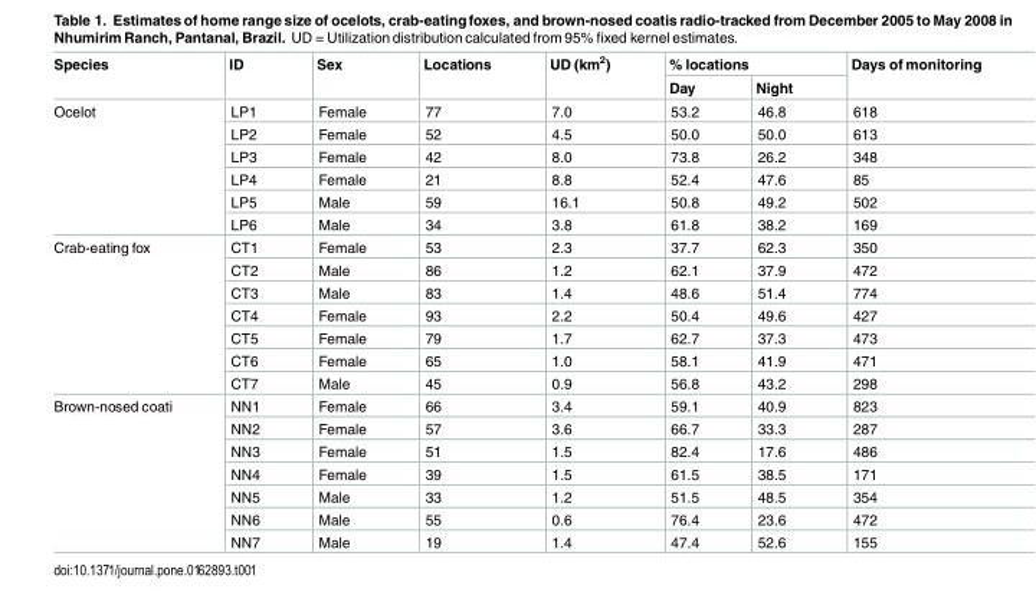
<table><thead><tr><td rowspan="2">Species</td><td rowspan="2">ID</td><td rowspan="2">Sex</td><td rowspan="2">Locations</td><td rowspan="2">UD (km<sup>2</sup>)</td><td colspan="2">% locations</td><td rowspan="2">Days of monitoring</td></tr><tr><td>Day</td><td>Night</td></tr></thead><tbody><tr><td rowspan="6">Ocelot</td><td>LP1</td><td>Female</td><td>77</td><td>7.0</td><td>53.2</td><td>46.8</td><td>618</td></tr><tr><td>LP2</td><td>Female</td><td>52</td><td>4.5</td><td>50.0</td><td>50.0</td><td>613</td></tr><tr><td>LP3</td><td>Female</td><td>42</td><td>8.0</td><td>73.8</td><td>26.2</td><td>348</td></tr><tr><td>LP4</td><td>Female</td><td>21</td><td>8.8</td><td>52.4</td><td>47.6</td><td>85</td></tr><tr><td>LP5</td><td>Male</td><td>59</td><td>16.1</td><td>50.8</td><td>49.2</td><td>502</td></tr><tr><td>LP6</td><td>Male</td><td>34</td><td>3.8</td><td>61.8</td><td>38.2</td><td>169</td></tr><tr><td rowspan="7">Crab-eating fox</td><td>CT1</td><td>Female</td><td>53</td><td>2.3</td><td>37.7</td><td>62.3</td><td>350</td></tr><tr><td>CT2</td><td>Male</td><td>86</td><td>1.2</td><td>62.1</td><td>37.9</td><td>472</td></tr><tr><td>CT3</td><td>Male</td><td>83</td><td>1.4</td><td>48.6</td><td>51.4</td><td>774</td></tr><tr><td>CT4</td><td>Female</td><td>93</td><td>2.2</td><td>50.4</td><td>49.6</td><td>427</td></tr><tr><td>CT5</td><td>Female</td><td>79</td><td>1.7</td><td>62.7</td><td>37.3</td><td>473</td></tr><tr><td>CT6</td><td>Female</td><td>65</td><td>1.0</td><td>58.1</td><td>41.9</td><td>471</td></tr><tr><td>CT7</td><td>Male</td><td>45</td><td>0.9</td><td>56.8</td><td>43.2</td><td>298</td></tr><tr><td rowspan="7">Brown-nosed coati</td><td>NN1</td><td>Female</td><td>66</td><td>3.4</td><td>59.1</td><td>40.9</td><td>823</td></tr><tr><td>NN2</td><td>Female</td><td>57</td><td>3.6</td><td>66.7</td><td>33.3</td><td>287</td></tr><tr><td>NN3</td><td>Female</td><td>51</td><td>1.5</td><td>82.4</td><td>17.6</td><td>486</td></tr><tr><td>NN4</td><td>Female</td><td>39</td><td>1.5</td><td>61.5</td><td>38.5</td><td>171</td></tr><tr><td>NN5</td><td>Male</td><td>33</td><td>1.2</td><td>51.5</td><td>48.5</td><td>354</td></tr><tr><td>NN6</td><td>Male</td><td>55</td><td>0.6</td><td>76.4</td><td>23.6</td><td>472</td></tr><tr><td>NN7</td><td>Male</td><td>19</td><td>1.4</td><td>47.4</td><td>52.6</td><td>155</td></tr></tbody></table>